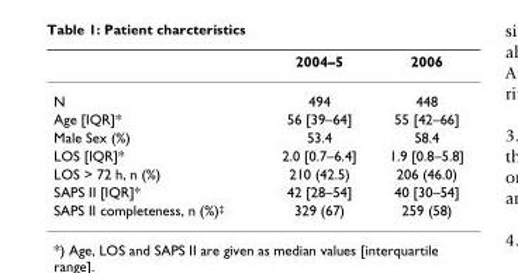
<table><thead><tr><td></td><td>2004–5</td><td>2006</td></tr></thead><tbody><tr><td>N</td><td>494</td><td>448</td></tr><tr><td>Age [IQR]*</td><td>56 [39–64]</td><td>55 [42–66]</td></tr><tr><td>Male Sex (%)</td><td>53.4</td><td>58.4</td></tr><tr><td>LOS [IQR]*</td><td>2.0 [0.7–6.4]</td><td>1.9 [0.8–5.8]</td></tr><tr><td>LOS &gt; 72 h, n (%)</td><td>210 (42.5)</td><td>206 (46.0)</td></tr><tr><td>SAPS II [IQR]*</td><td>42 [28–54]</td><td>40 [30–54]</td></tr><tr><td>SAPS II completeness, n (%)<sup>‡</sup></td><td>329 (67)</td><td>259 (58)</td></tr></tbody></table>